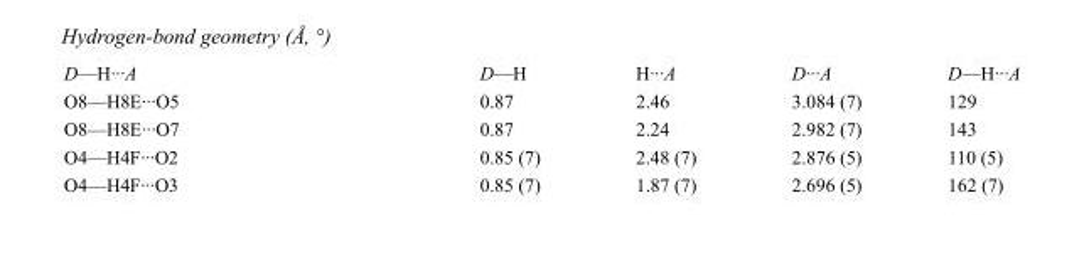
<table><tbody><tr><td>D—H···A</td><td>D—H</td><td>H···A</td><td>D···A</td><td>D—H···A</td></tr><tr><td>O8—H8E···O5</td><td>0.87</td><td>2.46</td><td>3.084 (7)</td><td>129</td></tr><tr><td>O8—H8E···O7</td><td>0.87</td><td>2.24</td><td>2.982 (7)</td><td>143</td></tr><tr><td>O4—H4F···O2</td><td>0.85 (7)</td><td>2.48 (7)</td><td>2.876 (5)</td><td>110 (5)</td></tr><tr><td>O4—H4F···O3</td><td>0.85 (7)</td><td>1.87 (7)</td><td>2.696 (5)</td><td>162 (7)</td></tr></tbody></table>